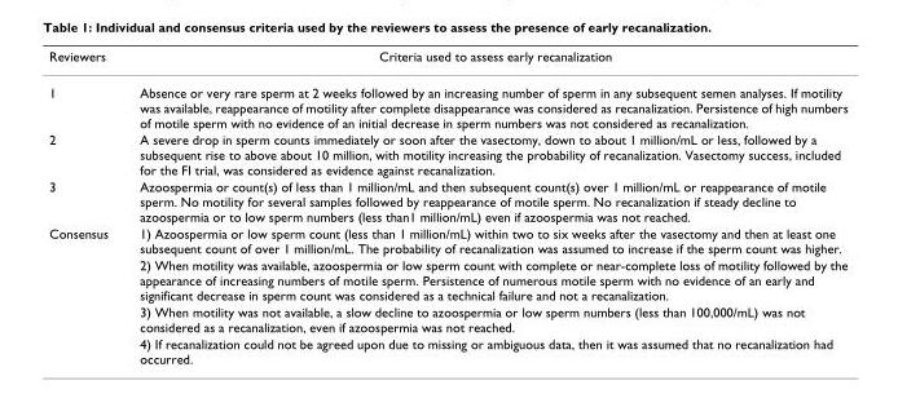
<table><thead><tr><td>Reviewers</td><td>Criteria used to assess early recanalization</td></tr></thead><tbody><tr><td>1</td><td>Absence or very rare sperm at 2 weeks followed by an increasing number of sperm in any subsequent semen analyses. If motility was available, reappearance of motility after complete disappearance was considered as recanalization. Persistence of high numbers of motile sperm with no evidence of an initial decrease in sperm numbers was not considered as recanalization.</td></tr><tr><td>2</td><td>A severe drop in sperm counts immediately or soon after the vasectomy, down to about 1 million/mL or less, followed by a subsequent rise to above about 10 million, with motility increasing the probability of recanalization. Vasectomy success, included for the FI trial, was considered as evidence against recanalization.</td></tr><tr><td>3</td><td>Azoospermia or count(s) of less than 1 million/mL and then subsequent count(s) over 1 million/mL or reappearance of motile sperm. No motility for several samples followed by reappearance of motile sperm. No recanalization if steady decline to azoospermia or to low sperm numbers (less than1 million/mL) even if azoospermia was not reached.</td></tr><tr><td rowspan="4">Consensus</td><td>1) Azoospermia or low sperm count (less than 1 million/mL) within two to six weeks after the vasectomy and then at least one subsequent count of over 1 million/mL. The probability of recanalization was assumed to increase if the sperm count was higher.</td></tr><tr><td>2) When motility was available, azoospermia or low sperm count with complete or near-complete loss of motility followed by the appearance of increasing numbers of motile sperm. Persistence of numerous motile sperm with no evidence of an early and significant decrease in sperm count was considered as a technical failure and not a recanalization.</td></tr><tr><td>3) When motility was not available, a slow decline to azoospermia or low sperm numbers (less than 100,000/mL) was not considered as a recanalization, even if azoospermia was not reached.</td></tr><tr><td>4) If recanalization could not be agreed upon due to missing or ambiguous data, then it was assumed that no recanalization had occurred.</td></tr></tbody></table>